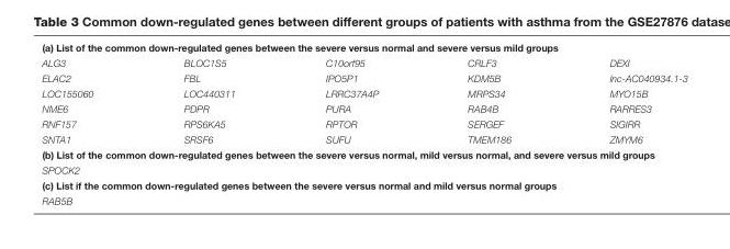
<table><tbody><tr><td colspan="5">(a) List of the common down-regulated genes between the severe versus normal and severe versus mild groups</td></tr><tr><td>ALG3</td><td>BLOC1S5</td><td>C10orf95</td><td>CRLF3</td><td>DEXI</td></tr><tr><td>ELAC2</td><td>FBL</td><td>IPO5P1</td><td>KDM5B</td><td>lnc-AC040934.1-3</td></tr><tr><td>LOC155060</td><td>LOC440311</td><td>LRRC37A4P</td><td>MRPS34</td><td>MYO15B</td></tr><tr><td>NME6</td><td>PDPR</td><td>PURA</td><td>RAB4B</td><td>RARRES3</td></tr><tr><td>RNF157</td><td>RPS6KA5</td><td>RPTOR</td><td>SERGEF</td><td>SIGIRR</td></tr><tr><td>SNTA1</td><td>SRSF6</td><td>SUFU</td><td>TMEM186</td><td>ZMYM6</td></tr><tr><td colspan="5">(b) List of the common down-regulated genes between the severe versus normal, mild versus normal, and severe versus mild groups</td></tr><tr><td colspan="5">SPOCK2</td></tr><tr><td colspan="5">(c) List if the common down-regulated genes between the severe versus normal and mild versus normal groups</td></tr><tr><td>RAB5B</td><td></td><td></td><td></td><td></td></tr></tbody></table>